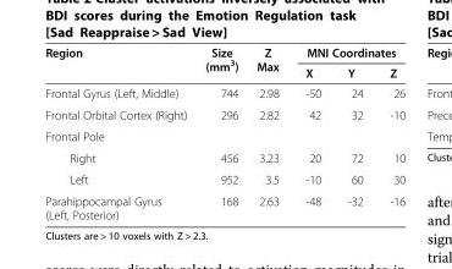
<table><thead><tr><td rowspan="2">Region</td><td rowspan="2">Size (mm<sup>3</sup>)</td><td rowspan="2">Z Max</td><td colspan="3">MNI Coordinates</td></tr><tr><td>X</td><td>Y</td><td>Z</td></tr></thead><tbody><tr><td>Frontal Gyrus (Left, Middle)</td><td>744</td><td>2.98</td><td>-50</td><td>24</td><td>26</td></tr><tr><td>Frontal Orbital Cortex (Right)</td><td>296</td><td>2.82</td><td>42</td><td>32</td><td>-10</td></tr><tr><td colspan="6">Frontal Pole</td></tr><tr><td>Right</td><td>456</td><td>3.23</td><td>20</td><td>72</td><td>10</td></tr><tr><td>Left</td><td>952</td><td>3.5</td><td>-10</td><td>60</td><td>30</td></tr><tr><td>Parahippocampal Gyrus (Left, Posterior)</td><td>168</td><td>2.63</td><td>-48</td><td>-32</td><td>-16</td></tr></tbody></table>